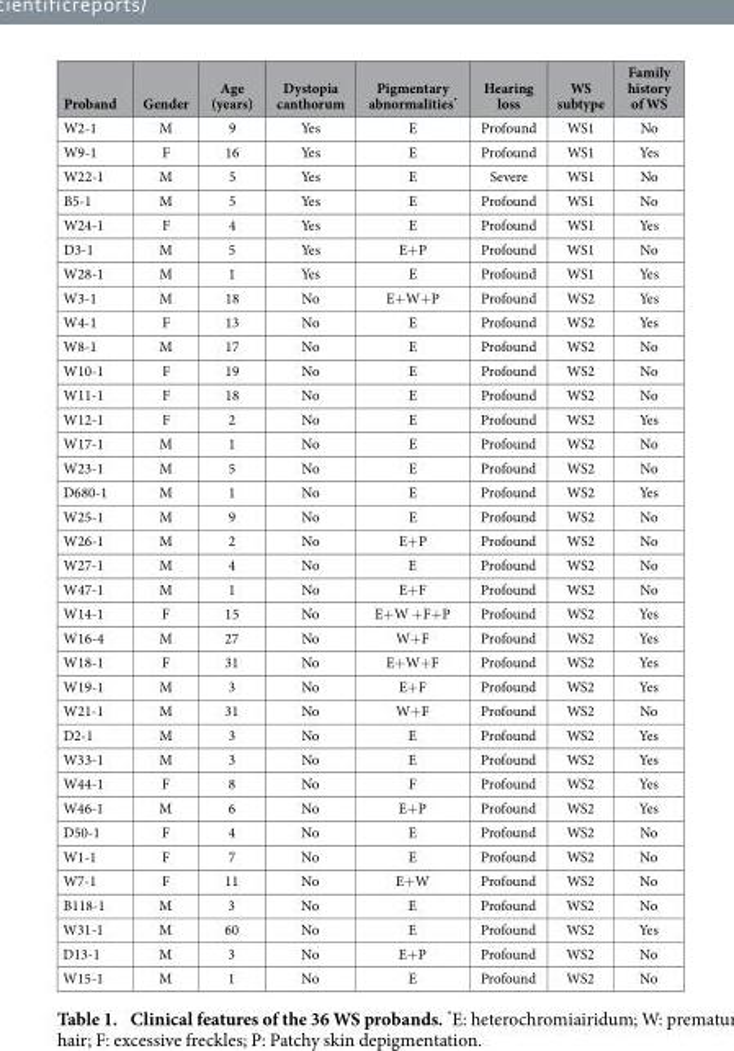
<table><thead><tr><td>Proband</td><td>Gender</td><td>Age (years)</td><td>Dystopia canthorum</td><td>Pigmentary abnormalities*</td><td>Hearing loss</td><td>WS subtype</td><td>Family history of WS</td></tr></thead><tbody><tr><td>W2-1</td><td>M</td><td>9</td><td>Yes</td><td>E</td><td>Profound</td><td>WS1</td><td>No</td></tr><tr><td>W9-1</td><td>F</td><td>16</td><td>Yes</td><td>E</td><td>Profound</td><td>WS1</td><td>Yes</td></tr><tr><td>W22-1</td><td>M</td><td>5</td><td>Yes</td><td>E</td><td>Severe</td><td>WS1</td><td>No</td></tr><tr><td>B5-1</td><td>M</td><td>5</td><td>Yes</td><td>E</td><td>Profound</td><td>WS1</td><td>No</td></tr><tr><td>W24-1</td><td>F</td><td>4</td><td>Yes</td><td>E</td><td>Profound</td><td>WS1</td><td>Yes</td></tr><tr><td>D3-1</td><td>M</td><td>5</td><td>Yes</td><td>E+ P</td><td>Profound</td><td>WS1</td><td>No</td></tr><tr><td>W28-1</td><td>M</td><td>1</td><td>Yes</td><td>E</td><td>Profound</td><td>WS1</td><td>Yes</td></tr><tr><td>W3-1</td><td>M</td><td>18</td><td>No</td><td>E+ W+ P</td><td>Profound</td><td>WS2</td><td>Yes</td></tr><tr><td>W4-1</td><td>F</td><td>13</td><td>No</td><td>E</td><td>Profound</td><td>WS2</td><td>Yes</td></tr><tr><td>W8-1</td><td>M</td><td>17</td><td>No</td><td>E</td><td>Profound</td><td>WS2</td><td>No</td></tr><tr><td>W10-1</td><td>F</td><td>19</td><td>No</td><td>E</td><td>Profound</td><td>WS2</td><td>No</td></tr><tr><td>W11-1</td><td>F</td><td>18</td><td>No</td><td>E</td><td>Profound</td><td>WS2</td><td>No</td></tr><tr><td>W12-1</td><td>F</td><td>2</td><td>No</td><td>E</td><td>Profound</td><td>WS2</td><td>Yes</td></tr><tr><td>W17-1</td><td>M</td><td>1</td><td>No</td><td>E</td><td>Profound</td><td>WS2</td><td>No</td></tr><tr><td>W23-1</td><td>M</td><td>5</td><td>No</td><td>E</td><td>Profound</td><td>WS2</td><td>No</td></tr><tr><td>D680-1</td><td>M</td><td>1</td><td>No</td><td>E</td><td>Profound</td><td>WS2</td><td>Yes</td></tr><tr><td>W25-1</td><td>M</td><td>9</td><td>No</td><td>E</td><td>Profound</td><td>WS2</td><td>No</td></tr><tr><td>W26-1</td><td>M</td><td>2</td><td>No</td><td>E+ P</td><td>Profound</td><td>WS2</td><td>No</td></tr><tr><td>W27-1</td><td>M</td><td>4</td><td>No</td><td>E</td><td>Profound</td><td>WS2</td><td>No</td></tr><tr><td>W47-1</td><td>M</td><td>1</td><td>No</td><td>E+ F</td><td>Profound</td><td>WS2</td><td>No</td></tr><tr><td>W14-1</td><td>F</td><td>15</td><td>No</td><td>E+ W + F+ P</td><td>Profound</td><td>WS2</td><td>Yes</td></tr><tr><td>W16-4</td><td>M</td><td>27</td><td>No</td><td>W+ F</td><td>Profound</td><td>WS2</td><td>Yes</td></tr><tr><td>W18-1</td><td>F</td><td>31</td><td>No</td><td>E+ W+ F</td><td>Profound</td><td>WS2</td><td>Yes</td></tr><tr><td>W19-1</td><td>M</td><td>3</td><td>No</td><td>E+ F</td><td>Profound</td><td>WS2</td><td>Yes</td></tr><tr><td>W21-1</td><td>M</td><td>31</td><td>No</td><td>W+ F</td><td>Profound</td><td>WS2</td><td>No</td></tr><tr><td>D2-1</td><td>M</td><td>3</td><td>No</td><td>E</td><td>Profound</td><td>WS2</td><td>Yes</td></tr><tr><td>W33-1</td><td>M</td><td>3</td><td>No</td><td>E</td><td>Profound</td><td>WS2</td><td>Yes</td></tr><tr><td>W44-1</td><td>F</td><td>8</td><td>No</td><td>F</td><td>Profound</td><td>WS2</td><td>Yes</td></tr><tr><td>W46-1</td><td>M</td><td>6</td><td>No</td><td>E+ P</td><td>Profound</td><td>WS2</td><td>Yes</td></tr><tr><td>D50-1</td><td>F</td><td>4</td><td>No</td><td>E</td><td>Profound</td><td>WS2</td><td>No</td></tr><tr><td>W1-1</td><td>F</td><td>7</td><td>No</td><td>E</td><td>Profound</td><td>WS2</td><td>No</td></tr><tr><td>W7-1</td><td>F</td><td>11</td><td>No</td><td>E+ W</td><td>Profound</td><td>WS2</td><td>No</td></tr><tr><td>B118-1</td><td>M</td><td>3</td><td>No</td><td>E</td><td>Profound</td><td>WS2</td><td>No</td></tr><tr><td>W31-1</td><td>M</td><td>60</td><td>No</td><td>E</td><td>Profound</td><td>WS2</td><td>Yes</td></tr><tr><td>D13-1</td><td>M</td><td>3</td><td>No</td><td>E+ P</td><td>Profound</td><td>WS2</td><td>No</td></tr><tr><td>W15-1</td><td>M</td><td>1</td><td>No</td><td>E</td><td>Profound</td><td>WS2</td><td>No</td></tr></tbody></table>